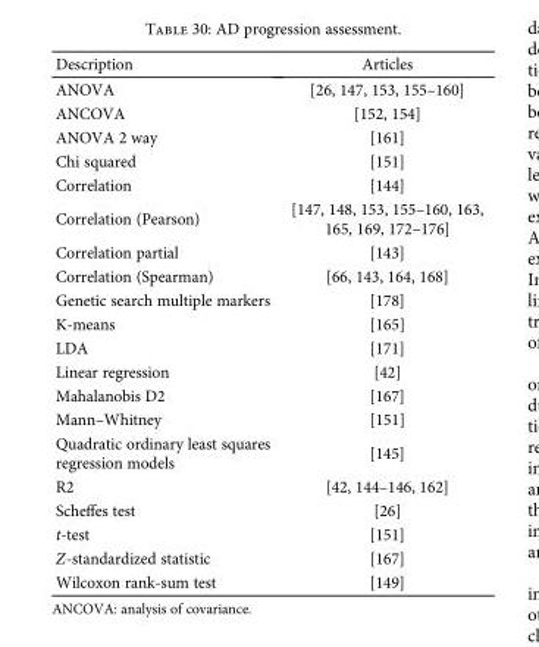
<table><thead><tr><td>Description</td><td>Articles</td></tr></thead><tbody><tr><td>ANOVA</td><td>[26, 147, 153, 155–160]</td></tr><tr><td>ANCOVA</td><td>[152, 154]</td></tr><tr><td>ANOVA 2 way</td><td>[161]</td></tr><tr><td>Chi squared</td><td>[151]</td></tr><tr><td>Correlation</td><td>[144]</td></tr><tr><td>Correlation (Pearson)</td><td>[147, 148, 153, 155–160, 163, 165, 169, 172–176]</td></tr><tr><td>Correlation partial</td><td>[143]</td></tr><tr><td>Correlation (Spearman)</td><td>[66, 143, 164, 168]</td></tr><tr><td>Genetic search multiple markers</td><td>[178]</td></tr><tr><td>K-means</td><td>[165]</td></tr><tr><td>LDA</td><td>[171]</td></tr><tr><td>Linear regression</td><td>[42]</td></tr><tr><td>Mahalanobis D2</td><td>[167]</td></tr><tr><td>Mann–Whitney</td><td>[151]</td></tr><tr><td>Quadratic ordinary least squares regression models</td><td>[145]</td></tr><tr><td>R2</td><td>[42, 144–146, 162]</td></tr><tr><td>Scheffes test</td><td>[26]</td></tr><tr><td>t-test</td><td>[151]</td></tr><tr><td>Z-standardized statistic</td><td>[167]</td></tr><tr><td>Wilcoxon rank-sum test</td><td>[149]</td></tr></tbody></table>